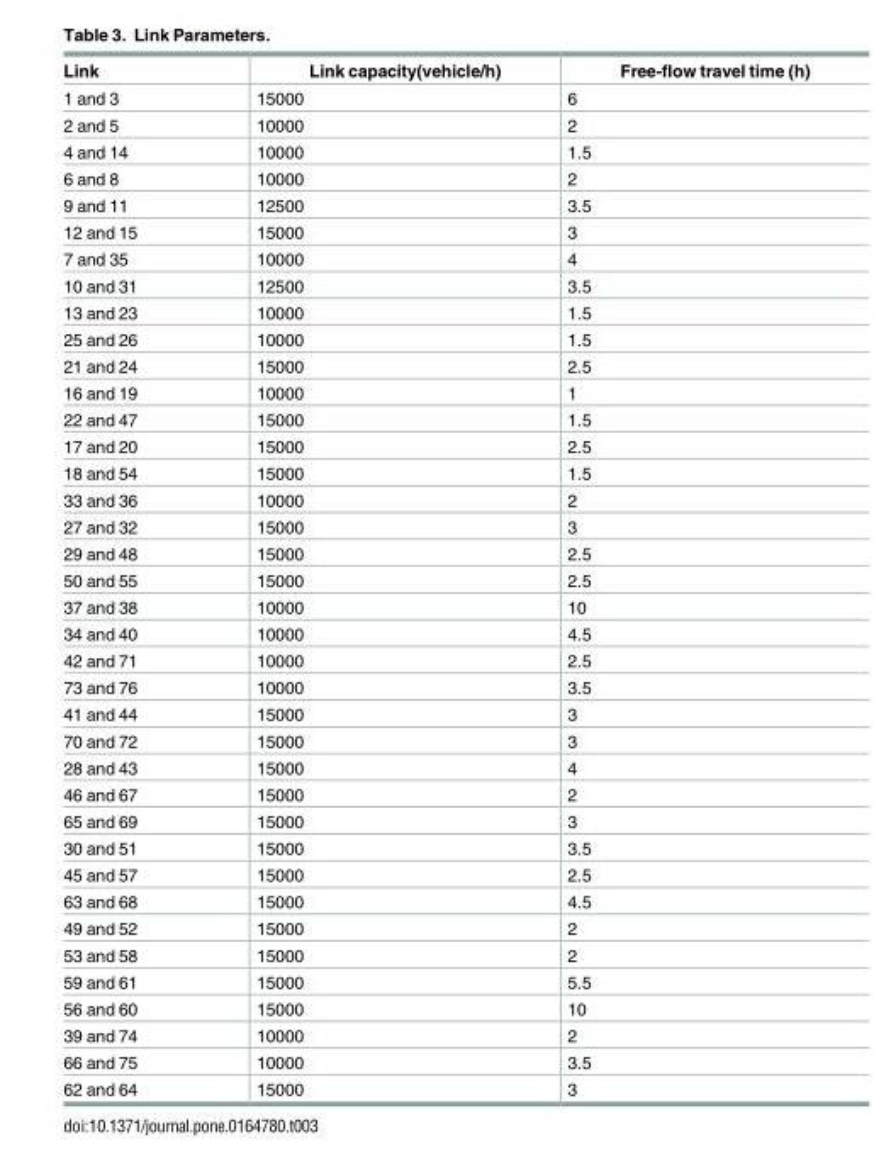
<table><thead><tr><td>Link</td><td>Link capacity(vehicle/h)</td><td>Free-flow travel time (h)</td></tr></thead><tbody><tr><td>1 and 3</td><td>15000</td><td>6</td></tr><tr><td>2 and 5</td><td>10000</td><td>2</td></tr><tr><td>4 and 14</td><td>10000</td><td>1.5</td></tr><tr><td>6 and 8</td><td>10000</td><td>2</td></tr><tr><td>9 and 11</td><td>12500</td><td>3.5</td></tr><tr><td>12 and 15</td><td>15000</td><td>3</td></tr><tr><td>7 and 35</td><td>10000</td><td>4</td></tr><tr><td>10 and 31</td><td>12500</td><td>3.5</td></tr><tr><td>13 and 23</td><td>10000</td><td>1.5</td></tr><tr><td>25 and 26</td><td>10000</td><td>1.5</td></tr><tr><td>21 and 24</td><td>15000</td><td>2.5</td></tr><tr><td>16 and 19</td><td>10000</td><td>1</td></tr><tr><td>22 and 47</td><td>15000</td><td>1.5</td></tr><tr><td>17 and 20</td><td>15000</td><td>2.5</td></tr><tr><td>18 and 54</td><td>15000</td><td>1.5</td></tr><tr><td>33 and 36</td><td>10000</td><td>2</td></tr><tr><td>27 and 32</td><td>15000</td><td>3</td></tr><tr><td>29 and 48</td><td>15000</td><td>2.5</td></tr><tr><td>50 and 55</td><td>15000</td><td>2.5</td></tr><tr><td>37 and 38</td><td>10000</td><td>10</td></tr><tr><td>34 and 40</td><td>10000</td><td>4.5</td></tr><tr><td>42 and 71</td><td>10000</td><td>2.5</td></tr><tr><td>73 and 76</td><td>10000</td><td>3.5</td></tr><tr><td>41 and 44</td><td>15000</td><td>3</td></tr><tr><td>70 and 72</td><td>15000</td><td>3</td></tr><tr><td>28 and 43</td><td>15000</td><td>4</td></tr><tr><td>46 and 67</td><td>15000</td><td>2</td></tr><tr><td>65 and 69</td><td>15000</td><td>3</td></tr><tr><td>30 and 51</td><td>15000</td><td>3.5</td></tr><tr><td>45 and 57</td><td>15000</td><td>2.5</td></tr><tr><td>63 and 68</td><td>15000</td><td>4.5</td></tr><tr><td>49 and 52</td><td>15000</td><td>2</td></tr><tr><td>53 and 58</td><td>15000</td><td>2</td></tr><tr><td>59 and 61</td><td>15000</td><td>5.5</td></tr><tr><td>56 and 60</td><td>15000</td><td>10</td></tr><tr><td>39 and 74</td><td>10000</td><td>2</td></tr><tr><td>66 and 75</td><td>10000</td><td>3.5</td></tr><tr><td>62 and 64</td><td>15000</td><td>3</td></tr></tbody></table>